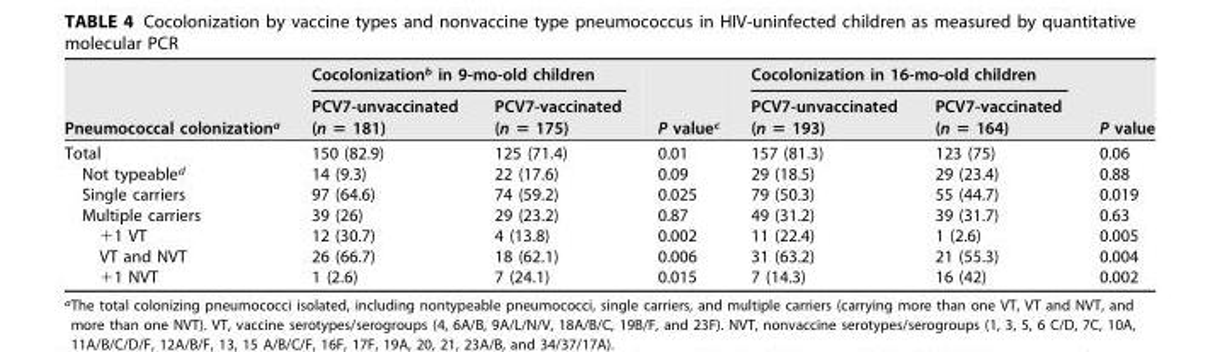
<table><thead><tr><td rowspan="2">Pneumococcal colonization<sup>a</sup></td><td colspan="2">Cocolonization<sup>b</sup> in 9-mo-old children</td><td rowspan="2">P value<sup>c</sup></td><td colspan="2">Cocolonization in 16-mo-old children</td><td rowspan="2">P value</td></tr><tr><td>PCV7-unvaccinated (n = 181)</td><td>PCV7-vaccinated (n = 175)</td><td>PCV7-unvaccinated (n = 193)</td><td>PCV7-vaccinated (n = 164)</td></tr></thead><tbody><tr><td>Total</td><td>150 (82.9)</td><td>125 (71.4)</td><td>0.01</td><td>157 (81.3)</td><td>123 (75)</td><td>0.06</td></tr><tr><td>Not typeable<sup>d</sup></td><td>14 (9.3)</td><td>22 (17.6)</td><td>0.09</td><td>29 (18.5)</td><td>29 (23.4)</td><td>0.88</td></tr><tr><td>Single carriers</td><td>97 (64.6)</td><td>74 (59.2)</td><td>0.025</td><td>79 (50.3)</td><td>55 (44.7)</td><td>0.019</td></tr><tr><td>Multiple carriers</td><td>39 (26)</td><td>29 (23.2)</td><td>0.87</td><td>49 (31.2)</td><td>39 (31.7)</td><td>0.63</td></tr><tr><td>+1 VT</td><td>12 (30.7)</td><td>4 (13.8)</td><td>0.002</td><td>11 (22.4)</td><td>1 (2.6)</td><td>0.005</td></tr><tr><td>VT and NVT</td><td>26 (66.7)</td><td>18 (62.1)</td><td>0.006</td><td>31 (63.2)</td><td>21 (55.3)</td><td>0.004</td></tr><tr><td>+1 NVT</td><td>1 (2.6)</td><td>7 (24.1)</td><td>0.015</td><td>7 (14.3)</td><td>16 (42)</td><td>0.002</td></tr></tbody></table>